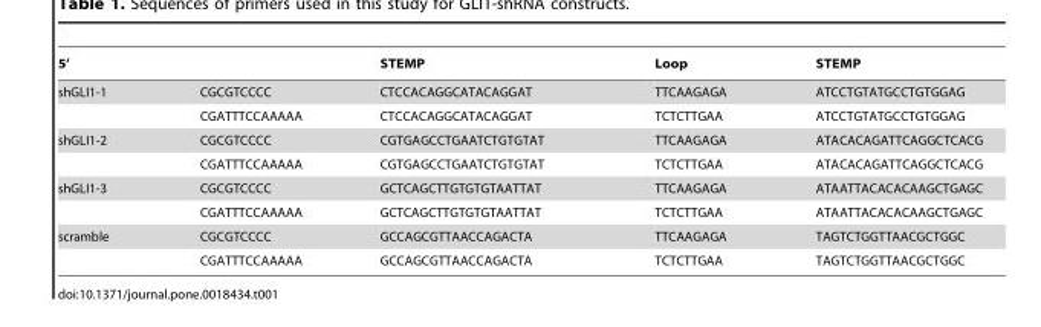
<table><thead><tr><td colspan="2">5’</td><td rowspan="2">STEMP CTCCACAGGCATACAGGAT</td><td rowspan="2">Loop TTCAAGAGA</td><td rowspan="2">STEMP ATCCTGTATGCCTGTGGAG</td></tr><tr><td>shGLI1-1</td><td>CGCGTCCCC</td></tr></thead><tbody><tr><td></td><td>CGATTTCCAAAAA</td><td>CTCCACAGGCATACAGGAT</td><td>TCTCTTGAA</td><td>ATCCTGTATGCCTGTGGAG</td></tr><tr><td rowspan="2">shGLI1-2</td><td>CGCGTCCCC</td><td>CGTGAGCCTGAATCTGTGTAT</td><td>TTCAAGAGA</td><td>ATACACAGATTCAGGCTCACG</td></tr><tr><td>CGATTTCCAAAAA</td><td>CGTGAGCCTGAATCTGTGTAT</td><td>TCTCTTGAA</td><td>ATACACAGATTCAGGCTCACG</td></tr><tr><td rowspan="2">shGLI1-3</td><td>CGCGTCCCC</td><td>GCTCAGCTTGTGTGTAATTAT</td><td>TTCAAGAGA</td><td>ATAATTACACACAAGCTGAGC</td></tr><tr><td>CGATTTCCAAAAA</td><td>GCTCAGCTTGTGTGTAATTAT</td><td>TCTCTTGAA</td><td>ATAATTACACACAAGCTGAGC</td></tr><tr><td rowspan="2">scramble</td><td>CGCGTCCCC</td><td>GCCAGCGTTAACCAGACTA</td><td>TTCAAGAGA</td><td>TAGTCTGGTTAACGCTGGC</td></tr><tr><td>CGATTTCCAAAAA</td><td>GCCAGCGTTAACCAGACTA</td><td>TCTCTTGAA</td><td>TAGTCTGGTTAACGCTGGC</td></tr></tbody></table>